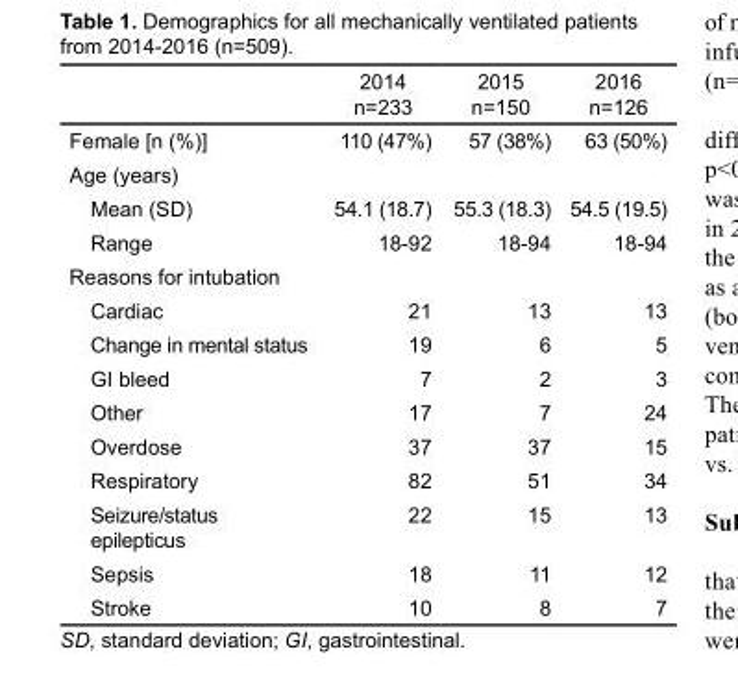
<table><thead><tr><td></td><td>2014 n=233</td><td>2015 n=150</td><td>2016 n=126</td></tr></thead><tbody><tr><td>Female [n (%)]</td><td>110 (47%)</td><td>57 (38%)</td><td>63 (50%)</td></tr><tr><td colspan="4">Age (years)</td></tr><tr><td>Mean (SD)</td><td>54.1 (18.7)</td><td>55.3 (18.3)</td><td>54.5 (19.5)</td></tr><tr><td>Range</td><td>18-92</td><td>18-94</td><td>18-94</td></tr><tr><td colspan="4">Reasons for intubation</td></tr><tr><td>Cardiac</td><td>21</td><td>13</td><td>13</td></tr><tr><td>Change in mental status</td><td>19</td><td>6</td><td>5</td></tr><tr><td>GI bleed</td><td>7</td><td>2</td><td>3</td></tr><tr><td>Other</td><td>17</td><td>7</td><td>24</td></tr><tr><td>Overdose</td><td>37</td><td>37</td><td>15</td></tr><tr><td>Respiratory</td><td>82</td><td>51</td><td>34</td></tr><tr><td>Seizure/status epilepticus</td><td>22</td><td>15</td><td>13</td></tr><tr><td>Sepsis</td><td>18</td><td>11</td><td>12</td></tr><tr><td>Stroke</td><td>10</td><td>8</td><td>7</td></tr></tbody></table>